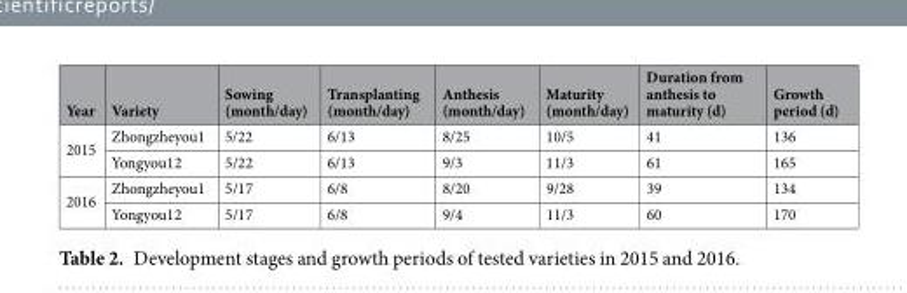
<table><thead><tr><td>Year</td><td>Variety</td><td>Sowing (month/day)</td><td>Transplanting (month/day)</td><td>Anthesis (month/day)</td><td>Maturity (month/day)</td><td>Duration from anthesis to maturity (d)</td><td>Growth period (d)</td></tr></thead><tbody><tr><td rowspan="2">2015</td><td>Zhongzheyou1</td><td>5/22</td><td>6/13</td><td>8/25</td><td>10/5</td><td>41</td><td>136</td></tr><tr><td>Yongyou12</td><td>5/22</td><td>6/13</td><td>9/3</td><td>11/3</td><td>61</td><td>165</td></tr><tr><td rowspan="2">2016</td><td>Zhongzheyou1</td><td>5/17</td><td>6/8</td><td>8/20</td><td>9/28</td><td>39</td><td>134</td></tr><tr><td>Yongyou12</td><td>5/17</td><td>6/8</td><td>9/4</td><td>11/3</td><td>60</td><td>170</td></tr></tbody></table>